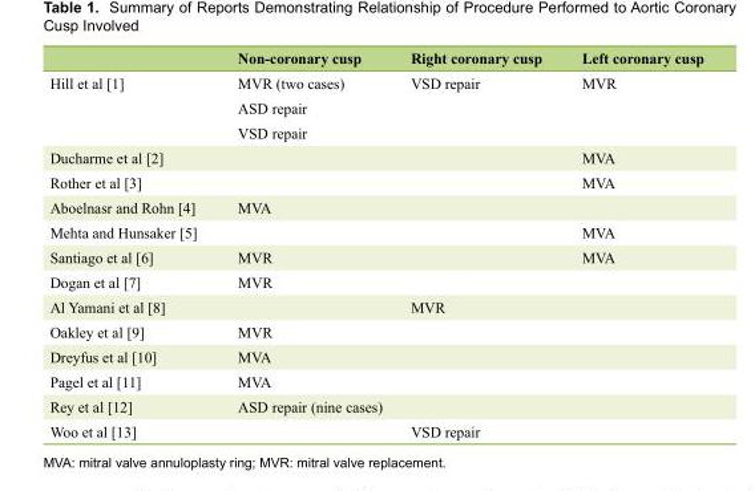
<table><thead><tr><td></td><td>Non-coronary cusp</td><td>Right coronary cusp</td><td>Left coronary cusp</td></tr></thead><tbody><tr><td rowspan="3">Hill et al [1]</td><td>MVR (two cases)</td><td>VSD repair</td><td>MVR</td></tr><tr><td>ASD repair</td><td></td><td></td></tr><tr><td>VSD repair</td><td></td><td></td></tr><tr><td>Ducharme et al [2]</td><td></td><td></td><td>MVA</td></tr><tr><td>Rother et al [3]</td><td></td><td></td><td>MVA</td></tr><tr><td>Aboelnasr and Rohn [4]</td><td>MVA</td><td></td><td></td></tr><tr><td>Mehta and Hunsaker [5]</td><td></td><td></td><td>MVA</td></tr><tr><td>Santiago et al [6]</td><td>MVR</td><td></td><td>MVA</td></tr><tr><td>Dogan et al [7]</td><td>MVR</td><td></td><td></td></tr><tr><td>Al Yamani et al [8]</td><td></td><td>MVR</td><td></td></tr><tr><td>Oakley et al [9]</td><td>MVR</td><td></td><td></td></tr><tr><td>Dreyfus et al [10]</td><td>MVA</td><td></td><td></td></tr><tr><td>Pagel et al [11]</td><td>MVA</td><td></td><td></td></tr><tr><td>Rey et al [12]</td><td>ASD repair (nine cases)</td><td></td><td></td></tr><tr><td>Woo et al [13]</td><td></td><td>VSD repair</td><td></td></tr></tbody></table>